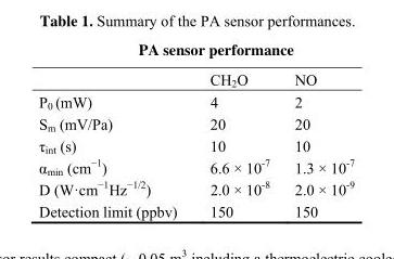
<table><thead><tr><td colspan="3">PA sensor performance</td></tr><tr><td></td><td>CH<sub>2</sub>O</td><td>NO</td></tr></thead><tbody><tr><td>P<sub>0</sub> (mW)</td><td>4</td><td>2</td></tr><tr><td>S<sub>m</sub> (mV/Pa)</td><td>20</td><td>20</td></tr><tr><td>τ<sub>int</sub> (s)</td><td>10</td><td>10</td></tr><tr><td>α<sub>min</sub> (cm<sup>−1</sup>)</td><td>6.6 × 10<sup>-7</sup></td><td>1.3 × 10<sup>-7</sup></td></tr><tr><td>D (W·cm<sup>−1</sup>Hz<sup>−1/2</sup>)</td><td>2.0 × 10<sup>-8</sup></td><td>2.0 × 10<sup>-9</sup></td></tr><tr><td>Detection limit (ppbv)</td><td>150</td><td>150</td></tr></tbody></table>